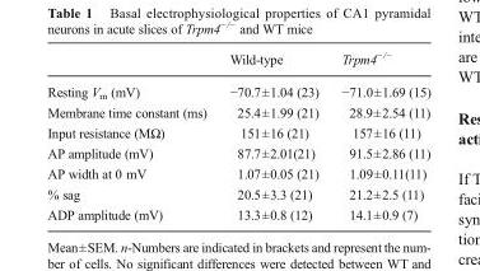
<table><thead><tr><td></td><td>Wild-type</td><td>Trpm4<sup>−/−</sup></td></tr></thead><tbody><tr><td>Resting V<sub>m</sub> (mV)</td><td>−70.7±1.04 (23)</td><td>−71.0±1.69 (15)</td></tr><tr><td>Membrane time constant (ms)</td><td>25.4±1.99 (21)</td><td>28.9±2.54 (11)</td></tr><tr><td>Input resistance (MΩ)</td><td>151±16 (21)</td><td>157±16 (11)</td></tr><tr><td>AP amplitude (mV)</td><td>87.7±2.01(21)</td><td>91.5±2.86 (11)</td></tr><tr><td>AP width at 0 mV</td><td>1.07±0.05 (21)</td><td>1.09±0.11(11)</td></tr><tr><td>% sag</td><td>20.5±3.3 (21)</td><td>21.2±2.5 (11)</td></tr><tr><td>ADP amplitude (mV)</td><td>13.3±0.8 (12)</td><td>14.1±0.9 (7)</td></tr></tbody></table>